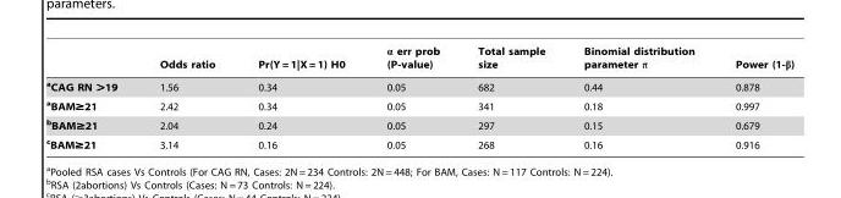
<table><thead><tr><td></td><td>Odds ratio</td><td>Pr(Y = 1|X = 1) H0</td><td>α err prob (P-value)</td><td>Total sample size</td><td>Binomial distribution parameter π</td><td>Power (1-β)</td></tr></thead><tbody><tr><td>aCAG RN &gt;19</td><td>1.56</td><td>0.34</td><td>0.05</td><td>682</td><td>0.44</td><td>0.878</td></tr><tr><td>aBAM≥21</td><td>2.42</td><td>0.34</td><td>0.05</td><td>341</td><td>0.18</td><td>0.997</td></tr><tr><td>bBAM≥21</td><td>2.04</td><td>0.24</td><td>0.05</td><td>297</td><td>0.15</td><td>0.679</td></tr><tr><td>cBAM≥21</td><td>3.14</td><td>0.16</td><td>0.05</td><td>268</td><td>0.16</td><td>0.916</td></tr></tbody></table>